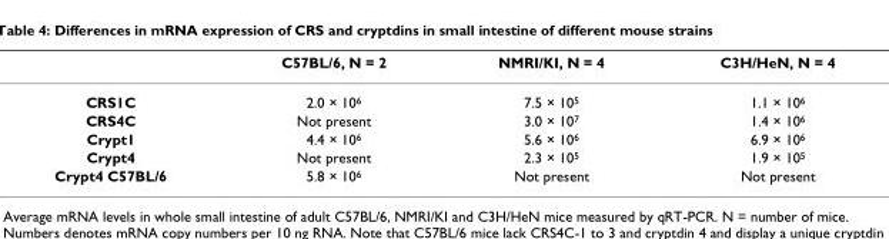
<table><thead><tr><td></td><td>C57BL/6, N = 2</td><td>NMRI/KI, N = 4</td><td>C3H/HeN, N = 4</td></tr></thead><tbody><tr><td>CRS1C</td><td>2.0 × 10<sup>6</sup></td><td>7.5 × 10<sup>5</sup></td><td>1.1 × 10<sup>6</sup></td></tr><tr><td>CRS4C</td><td>Not present</td><td>3.0 × 10<sup>7</sup></td><td>1.4 × 10<sup>6</sup></td></tr><tr><td>Crypt1</td><td>4.4 × 10<sup>6</sup></td><td>5.6 × 10<sup>6</sup></td><td>6.9 × 10<sup>6</sup></td></tr><tr><td>Crypt4</td><td>Not present</td><td>2.3 × 10<sup>5</sup></td><td>1.9 × 10<sup>5</sup></td></tr><tr><td>Crypt4 C57BL/6</td><td>5.8 × 10<sup>6</sup></td><td>Not present</td><td>Not present</td></tr></tbody></table>